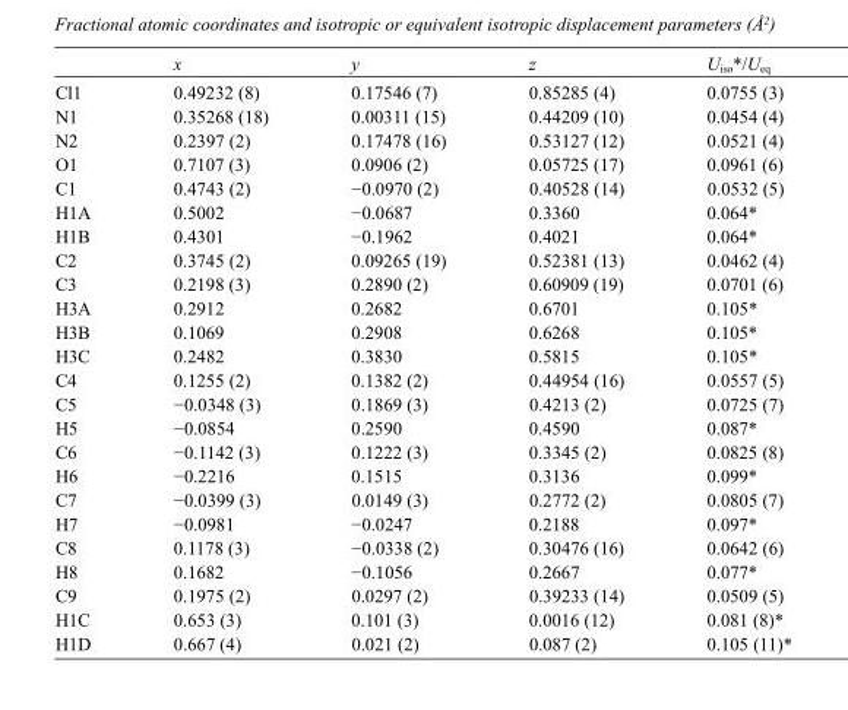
<table><thead><tr><td></td><td>x</td><td>y</td><td>z</td><td>U<sub>iso</sub>*/U<sub>eq</sub></td></tr></thead><tbody><tr><td>Cl1</td><td>0.49232 (8)</td><td>0.17546 (7)</td><td>0.85285 (4)</td><td>0.0755 (3)</td></tr><tr><td>N1</td><td>0.35268 (18)</td><td>0.00311 (15)</td><td>0.44209 (10)</td><td>0.0454 (4)</td></tr><tr><td>N2</td><td>0.2397 (2)</td><td>0.17478 (16)</td><td>0.53127 (12)</td><td>0.0521 (4)</td></tr><tr><td>O1</td><td>0.7107 (3)</td><td>0.0906 (2)</td><td>0.05725 (17)</td><td>0.0961 (6)</td></tr><tr><td>C1</td><td>0.4743 (2)</td><td>−0.0970 (2)</td><td>0.40528 (14)</td><td>0.0532 (5)</td></tr><tr><td>H1A</td><td>0.5002</td><td>−0.0687</td><td>0.3360</td><td>0.064*</td></tr><tr><td>H1B</td><td>0.4301</td><td>−0.1962</td><td>0.4021</td><td>0.064*</td></tr><tr><td>C2</td><td>0.3745 (2)</td><td>0.09265 (19)</td><td>0.52381 (13)</td><td>0.0462 (4)</td></tr><tr><td>C3</td><td>0.2198 (3)</td><td>0.2890 (2)</td><td>0.60909 (19)</td><td>0.0701 (6)</td></tr><tr><td>H3A</td><td>0.2912</td><td>0.2682</td><td>0.6701</td><td>0.105*</td></tr><tr><td>H3B</td><td>0.1069</td><td>0.2908</td><td>0.6268</td><td>0.105*</td></tr><tr><td>H3C</td><td>0.2482</td><td>0.3830</td><td>0.5815</td><td>0.105*</td></tr><tr><td>C4</td><td>0.1255 (2)</td><td>0.1382 (2)</td><td>0.44954 (16)</td><td>0.0557 (5)</td></tr><tr><td>C5</td><td>−0.0348 (3)</td><td>0.1869 (3)</td><td>0.4213 (2)</td><td>0.0725 (7)</td></tr><tr><td>H5</td><td>−0.0854</td><td>0.2590</td><td>0.4590</td><td>0.087*</td></tr><tr><td>C6</td><td>−0.1142 (3)</td><td>0.1222 (3)</td><td>0.3345 (2)</td><td>0.0825 (8)</td></tr><tr><td>H6</td><td>−0.2216</td><td>0.1515</td><td>0.3136</td><td>0.099*</td></tr><tr><td>C7</td><td>−0.0399 (3)</td><td>0.0149 (3)</td><td>0.2772 (2)</td><td>0.0805 (7)</td></tr><tr><td>H7</td><td>−0.0981</td><td>−0.0247</td><td>0.2188</td><td>0.097*</td></tr><tr><td>C8</td><td>0.1178 (3)</td><td>−0.0338 (2)</td><td>0.30476 (16)</td><td>0.0642 (6)</td></tr><tr><td>H8</td><td>0.1682</td><td>−0.1056</td><td>0.2667</td><td>0.077*</td></tr><tr><td>C9</td><td>0.1975 (2)</td><td>0.0297 (2)</td><td>0.39233 (14)</td><td>0.0509 (5)</td></tr><tr><td>H1C</td><td>0.653 (3)</td><td>0.101 (3)</td><td>0.0016 (12)</td><td>0.081 (8)*</td></tr><tr><td>H1D</td><td>0.667 (4)</td><td>0.021 (2)</td><td>0.087 (2)</td><td>0.105 (11)*</td></tr></tbody></table>